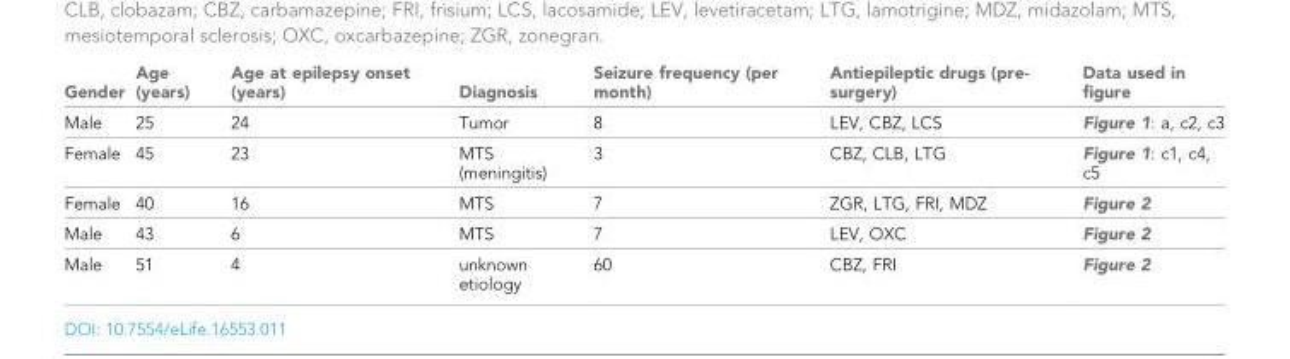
<table><thead><tr><td>Gender</td><td>Age (years)</td><td>Age at epilepsy onset (years)</td><td>Diagnosis</td><td>Seizure frequency (per month)</td><td>Antiepileptic drugs (pre- surgery)</td><td>Data used in figure</td></tr></thead><tbody><tr><td>Male</td><td>25</td><td>24</td><td>Tumor</td><td>8</td><td>LEV, CBZ, LCS</td><td>Figure 1: a, c2, c3</td></tr><tr><td>Female</td><td>45</td><td>23</td><td>MTS (meningitis)</td><td>3</td><td>CBZ, CLB, LTG</td><td>Figure 1: c1, c4, c5</td></tr><tr><td>Female</td><td>40</td><td>16</td><td>MTS</td><td>7</td><td>ZGR, LTG, FRI, MDZ</td><td>Figure 2</td></tr><tr><td>Male</td><td>43</td><td>6</td><td>MTS</td><td>7</td><td>LEV, OXC</td><td>Figure 2</td></tr><tr><td>Male</td><td>51</td><td>4</td><td>unknown etiology</td><td>60</td><td>CBZ, FRI</td><td>Figure 2</td></tr></tbody></table>